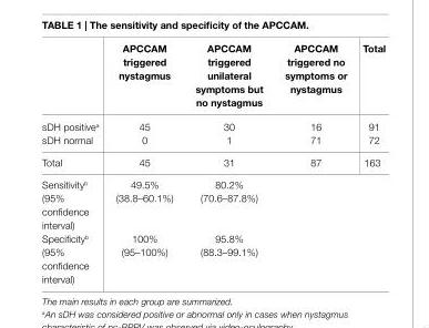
<table><thead><tr><td></td><td>aPccaM triggered nystagmus</td><td>aPccaM triggered unilateral symptoms but no nystagmus</td><td>aPccaM triggered no symptoms or nystagmus</td><td>Total</td></tr></thead><tbody><tr><td>sDH positive<sup>a</sup></td><td>45</td><td>30</td><td>16</td><td>91</td></tr><tr><td>sDH normal</td><td>0</td><td>1</td><td>71</td><td>72</td></tr><tr><td>Total</td><td>45</td><td>31</td><td>87</td><td>163</td></tr><tr><td>Sensitivity<sup>b</sup> (95% confidence interval)</td><td>49.5% (38.8–60.1%)</td><td>80.2% (70.6–87.8%)</td><td colspan="2"></td></tr><tr><td>Specificity<sup>b</sup> (95% confidence interval)</td><td>100% (95–100%)</td><td>95.8% (88.3–99.1%)</td><td colspan="2"></td></tr></tbody></table>